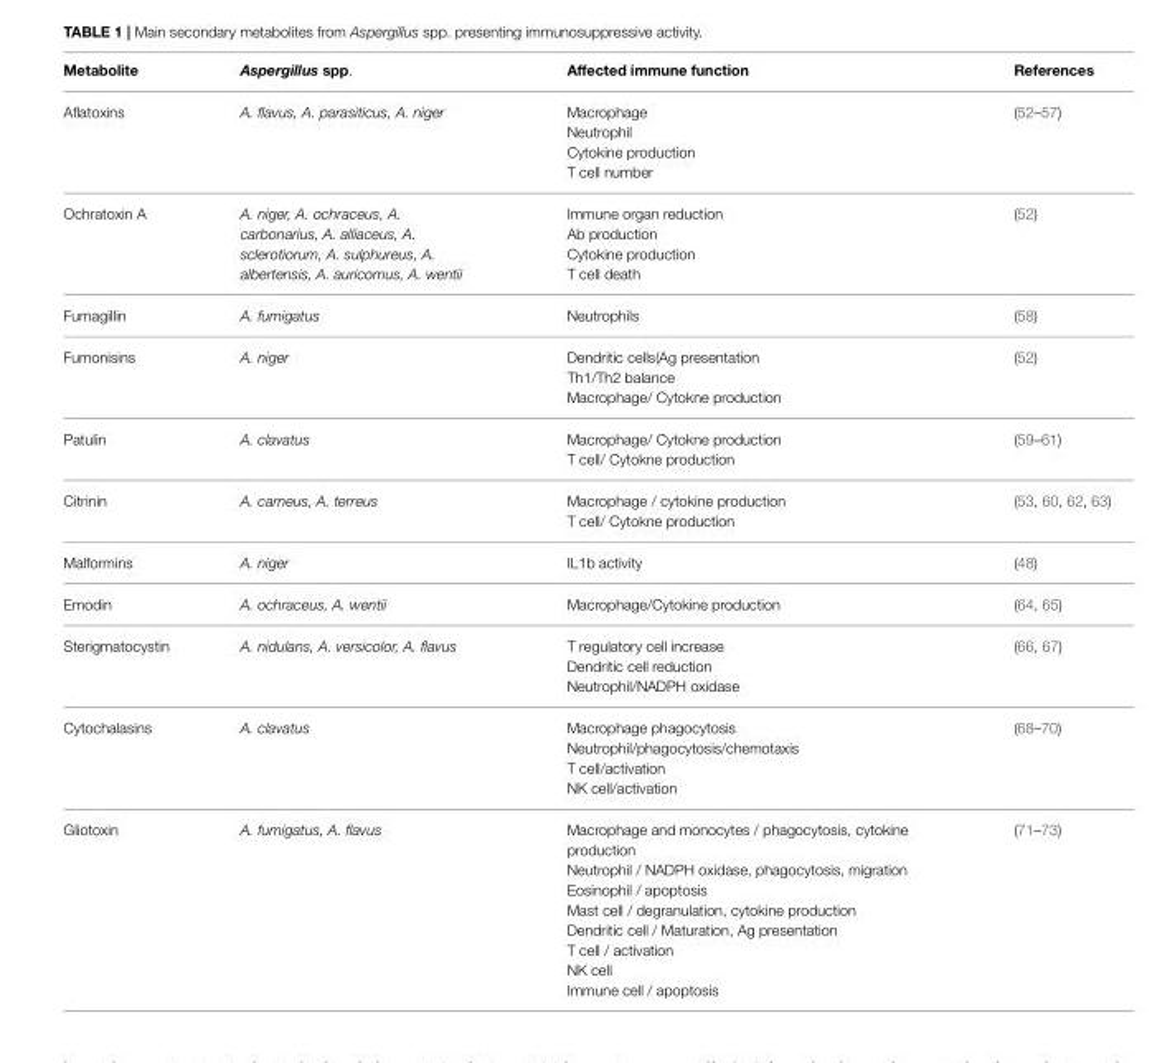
<table><thead><tr><td>Metabolite</td><td>Aspergillus spp.</td><td>Affected immune function</td><td>References</td></tr></thead><tbody><tr><td>Aflatoxins</td><td>A. flavus, A. parasiticus, A. niger</td><td>Macrophage Neutrophil Cytokine production T cell number</td><td>(52–57)</td></tr><tr><td>Ochratoxin A</td><td>A. niger, A. ochraceus, A. carbonarius, A. alliaceus, A. sclerotiorum, A. sulphureus, A. albertensis, A. auricomus, A. wentii</td><td>Immune organ reduction Ab production Cytokine production T cell death</td><td>(52)</td></tr><tr><td>Fumagillin</td><td>A. fumigatus</td><td>Neutrophils</td><td>(58)</td></tr><tr><td>Fumonisins</td><td>A. niger</td><td>Dendritic cells(Ag presentation Th1/Th2 balance Macrophage/ Cytokne production</td><td>(52)</td></tr><tr><td>Patulin</td><td>A. clavatus</td><td>Macrophage/ Cytokne production T cell/ Cytokne production</td><td>(59–61)</td></tr><tr><td>Citrinin</td><td>A. carneus, A. terreus</td><td>Macrophage / cytokine production T cell/ Cytokne production</td><td>(53, 60, 62, 63)</td></tr><tr><td>Malformins</td><td>A. niger</td><td>IL1b activity</td><td>(48)</td></tr><tr><td>Emodin</td><td>A. ochraceus, A. wentii</td><td>Macrophage/Cytokine production</td><td>(64, 65)</td></tr><tr><td>Sterigmatocystin</td><td>A. nidulans, A. versicolor, A. flavus</td><td>T regulatory cell increase Dendritic cell reduction Neutrophil/NADPH oxidase</td><td>(66, 67)</td></tr><tr><td>Cytochalasins</td><td>A. clavatus</td><td>Macrophage phagocytosis Neutrophil/phagocytosis/chemotaxis T cell/activation NK cell/activation</td><td>(68–70)</td></tr><tr><td>Gliotoxin</td><td>A. fumigatus, A. flavus</td><td>Macrophage and monocytes / phagocytosis, cytokine production Neutrophil / NADPH oxidase, phagocytosis, migration Eosinophil / apoptosis Mast cell / degranulation, cytokine production Dendritic cell / Maturation, Ag presentation T cell / activation NK cell Immune cell / apoptosis</td><td>(71–73)</td></tr></tbody></table>